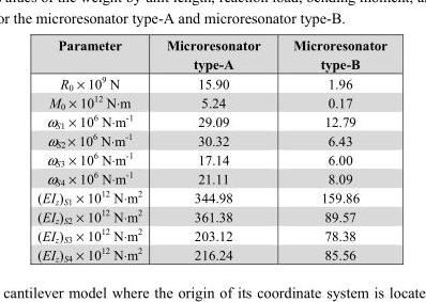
<table><thead><tr><td>Parameter</td><td>Microresonator type-A</td><td>Microresonator type-B</td></tr></thead><tbody><tr><td>R<sub>0</sub> × 10<sup>9</sup> N</td><td>15.90</td><td>1.96</td></tr><tr><td>M0 × 1012 N⋅m</td><td>5.24</td><td>0.17</td></tr><tr><td>ωS1 × 106 N⋅m-1</td><td>29.09</td><td>12.79</td></tr><tr><td>ωS2 × 106 N⋅m-1</td><td>30.32</td><td>6.43</td></tr><tr><td>ωS3 × 106 N⋅m-1</td><td>17.14</td><td>6.00</td></tr><tr><td>ωS4 × 106 N⋅m-1</td><td>21.11</td><td>8.09</td></tr><tr><td>(EIz)S1 × 1012 N⋅m2</td><td>344.98</td><td>159.86</td></tr><tr><td>(EIz)S2 × 1012 N⋅m2</td><td>361.38</td><td>89.57</td></tr><tr><td>(EIz)S3 × 1012 N⋅m2</td><td>203.12</td><td>78.38</td></tr><tr><td>(EIz)S4 × 1012 N⋅m2</td><td>216.24</td><td>85.56</td></tr></tbody></table>